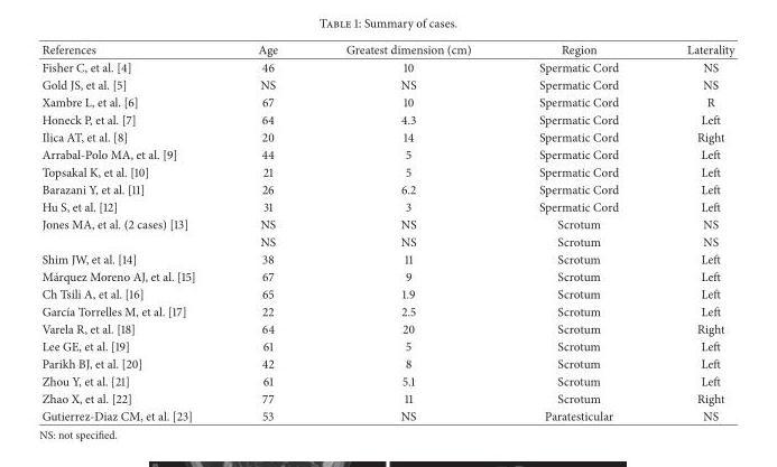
<table><thead><tr><td>References</td><td>Age</td><td>Greatest dimension (cm)</td><td>Region</td><td>Laterality</td></tr></thead><tbody><tr><td>Fisher C, et al. [4]</td><td>46</td><td>10</td><td>Spermatic Cord</td><td>NS</td></tr><tr><td>Gold JS, et al. [5]</td><td>NS</td><td>NS</td><td>Spermatic Cord</td><td>NS</td></tr><tr><td>Xambre L, et al. [6]</td><td>67</td><td>10</td><td>Spermatic Cord</td><td>R</td></tr><tr><td>Honeck P, et al. [7]</td><td>64</td><td>4.3</td><td>Spermatic Cord</td><td>Left</td></tr><tr><td>Ilica AT, et al. [8]</td><td>20</td><td>14</td><td>Spermatic Cord</td><td>Right</td></tr><tr><td>Arrabal-Polo MA, et al. [9]</td><td>44</td><td>5</td><td>Spermatic Cord</td><td>Left</td></tr><tr><td>Topsakal K, et al. [10]</td><td>21</td><td>5</td><td>Spermatic Cord</td><td>Left</td></tr><tr><td>Barazani Y, et al. [11]</td><td>26</td><td>6.2</td><td>Spermatic Cord</td><td>Left</td></tr><tr><td>Hu S, et al. [12]</td><td>31</td><td>3</td><td>Spermatic Cord</td><td>Left</td></tr><tr><td rowspan="2">Jones MA, et al. (2 cases) [13]</td><td>NS</td><td>NS</td><td>Scrotum</td><td>NS</td></tr><tr><td>NS</td><td>NS</td><td>Scrotum</td><td>NS</td></tr><tr><td>Shim JW, et al. [14]</td><td>38</td><td>11</td><td>Scrotum</td><td>Left</td></tr><tr><td>M´arquez Moreno AJ, et al. [15]</td><td>67</td><td>9</td><td>Scrotum</td><td>Left</td></tr><tr><td>Ch Tsili A, et al. [16]</td><td>65</td><td>1.9</td><td>Scrotum</td><td>Left</td></tr><tr><td>Garc´ıa Torrelles M, et al. [17]</td><td>22</td><td>2.5</td><td>Scrotum</td><td>Left</td></tr><tr><td>Varela R, et al. [18]</td><td>64</td><td>20</td><td>Scrotum</td><td>Right</td></tr><tr><td>Lee GE, et al. [19]</td><td>61</td><td>5</td><td>Scrotum</td><td>Left</td></tr><tr><td>Parikh BJ, et al. [20]</td><td>42</td><td>8</td><td>Scrotum</td><td>Left</td></tr><tr><td>Zhou Y, et al. [21]</td><td>61</td><td>5.1</td><td>Scrotum</td><td>Left</td></tr><tr><td>Zhao X, et al. [22]</td><td>77</td><td>11</td><td>Scrotum</td><td>Right</td></tr><tr><td>Gutierrez-Diaz CM, et al. [23]</td><td>53</td><td>NS</td><td>Paratesticular</td><td>NS</td></tr></tbody></table>